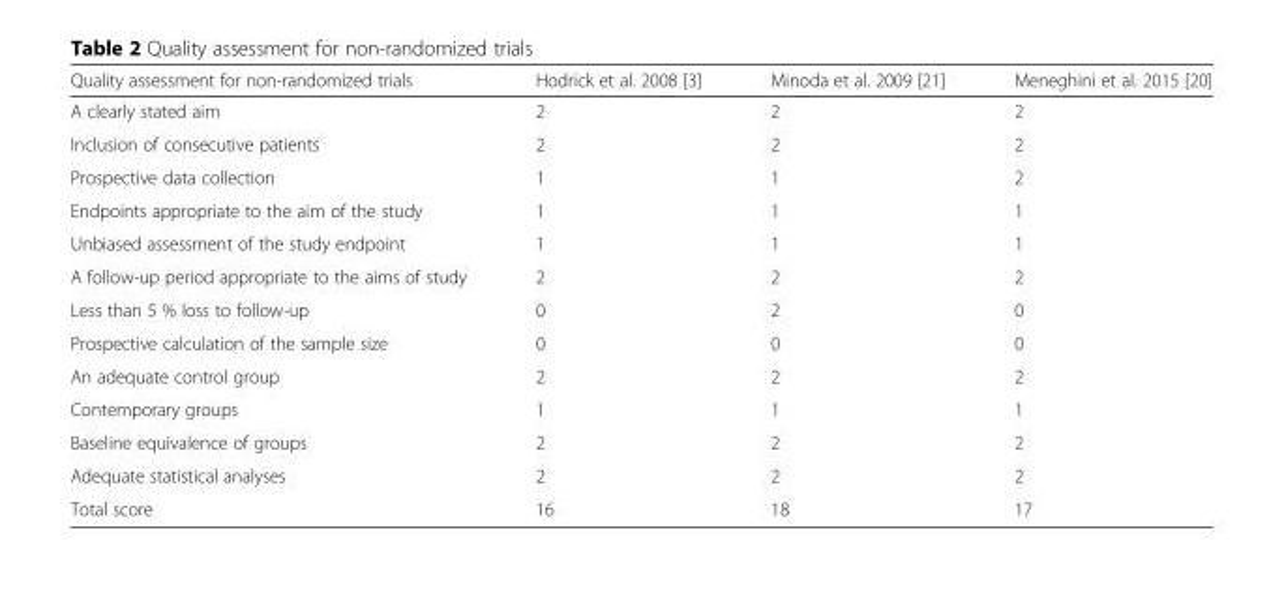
<table><thead><tr><td>Quality assessment for non-randomized trials</td><td>Hodrick et al. 2008 [3]</td><td>Minoda et al. 2009 [21]</td><td>Meneghini et al. 2015 [20]</td></tr></thead><tbody><tr><td>A clearly stated aim</td><td>2</td><td>2</td><td>2</td></tr><tr><td>Inclusion of consecutive patients</td><td>2</td><td>2</td><td>2</td></tr><tr><td>Prospective data collection</td><td>1</td><td>1</td><td>2</td></tr><tr><td>Endpoints appropriate to the aim of the study</td><td>1</td><td>1</td><td>1</td></tr><tr><td>Unbiased assessment of the study endpoint</td><td>1</td><td>1</td><td>1</td></tr><tr><td>A follow-up period appropriate to the aims of study</td><td>2</td><td>2</td><td>2</td></tr><tr><td>Less than 5 % loss to follow-up</td><td>0</td><td>2</td><td>0</td></tr><tr><td>Prospective calculation of the sample size</td><td>0</td><td>0</td><td>0</td></tr><tr><td>An adequate control group</td><td>2</td><td>2</td><td>2</td></tr><tr><td>Contemporary groups</td><td>1</td><td>1</td><td>1</td></tr><tr><td>Baseline equivalence of groups</td><td>2</td><td>2</td><td>2</td></tr><tr><td>Adequate statistical analyses</td><td>2</td><td>2</td><td>2</td></tr><tr><td>Total score</td><td>16</td><td>18</td><td>17</td></tr></tbody></table>